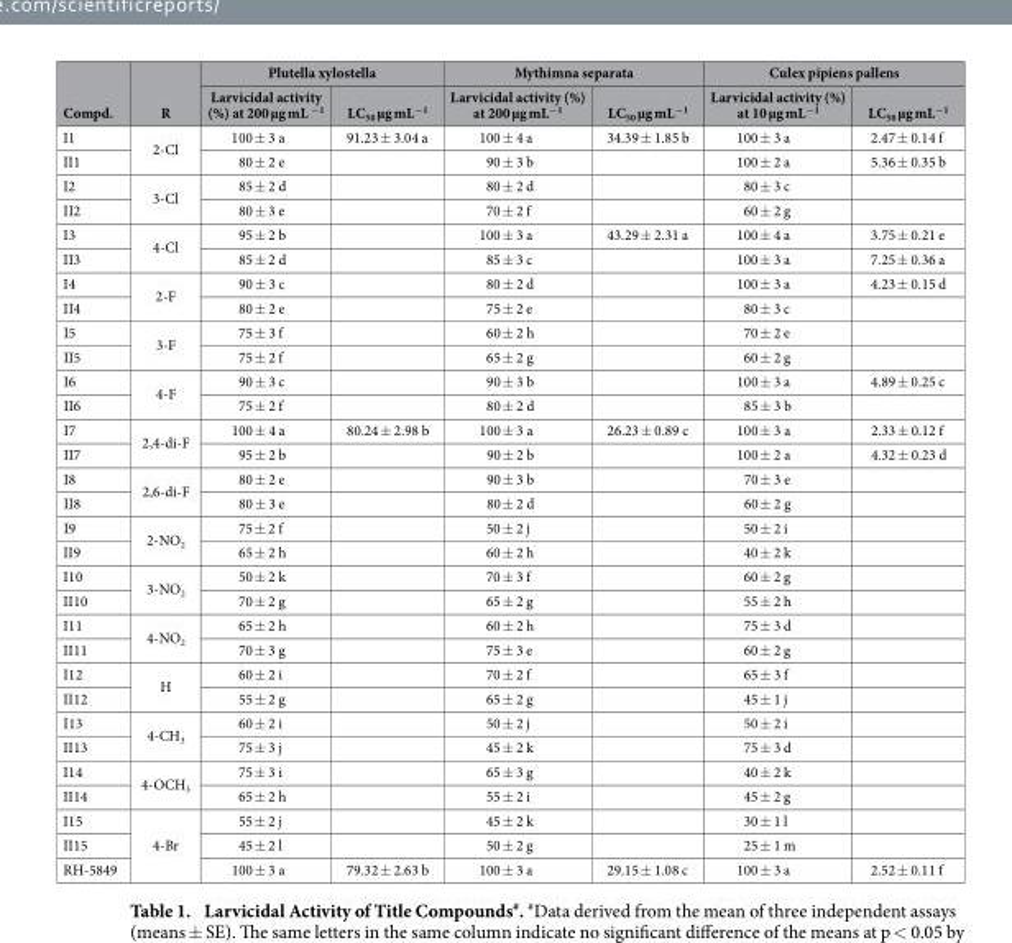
<table><thead><tr><td rowspan="2">Compd.</td><td rowspan="2">R</td><td colspan="2">Plutella xylostella</td><td colspan="2">Mythimna separata</td><td colspan="2">Culex pipiens pallens</td></tr><tr><td>Larvicidal activity (%) at 200 μg mL <sup>−1</sup></td><td>LC<sub>50</sub> μg mL<sup>−1</sup></td><td>Larvicidal activity (%) at 200 μg mL<sup>−1</sup></td><td>LC<sub>50</sub> μg mL<sup>−1</sup></td><td>Larvicidal activity (%) at 10 μg mL<sup>−1</sup></td><td>LC<sub>50</sub> μg mL<sup>−1</sup></td></tr></thead><tbody><tr><td>I1</td><td rowspan="2">2-Cl</td><td>100 ± 3 a</td><td>91.23 ± 3.04 a</td><td>100 ± 4 a</td><td>34.39 ± 1.85 b</td><td>100 ± 3 a</td><td>2.47 ± 0.14 f</td></tr><tr><td>II1</td><td>80 ± 2 e</td><td></td><td>90 ± 3 b</td><td></td><td>100 ± 2 a</td><td>5.36 ± 0.35 b</td></tr><tr><td>I2</td><td rowspan="2">3-Cl</td><td>85 ± 2 d</td><td></td><td>80 ± 2 d</td><td></td><td>80 ± 3 c</td><td></td></tr><tr><td>II2</td><td>80 ± 3 e</td><td></td><td>70 ± 2 f</td><td></td><td>60 ± 2 g</td><td></td></tr><tr><td>I3</td><td rowspan="2">4-Cl</td><td>95 ± 2 b</td><td></td><td>100 ± 3 a</td><td>43.29 ± 2.31 a</td><td>100 ± 4 a</td><td>3.75 ± 0.21 e</td></tr><tr><td>II3</td><td>85 ± 2 d</td><td></td><td>85 ± 3 c</td><td></td><td>100 ± 3 a</td><td>7.25 ± 0.36 a</td></tr><tr><td>I4</td><td rowspan="2">2-F</td><td>90 ± 3 c</td><td></td><td>80 ± 2 d</td><td></td><td>100 ± 3 a</td><td>4.23 ± 0.15 d</td></tr><tr><td>II4</td><td>80 ± 2 e</td><td></td><td>75 ± 2 e</td><td></td><td>80 ± 3 c</td><td></td></tr><tr><td>I5</td><td rowspan="2">3-F</td><td>75 ± 3 f</td><td></td><td>60 ± 2 h</td><td></td><td>70 ± 2 e</td><td></td></tr><tr><td>II5</td><td>75 ± 2 f</td><td></td><td>65 ± 2 g</td><td></td><td>60 ± 2 g</td><td></td></tr><tr><td>I6</td><td rowspan="2">4-F</td><td>90 ± 3 c</td><td></td><td>90 ± 3 b</td><td></td><td>100 ± 3 a</td><td>4.89 ± 0.25 c</td></tr><tr><td>II6</td><td>75 ± 2 f</td><td></td><td>80 ± 2 d</td><td></td><td>85 ± 3 b</td><td></td></tr><tr><td>I7</td><td rowspan="2">2,4-di-F</td><td>100 ± 4 a</td><td>80.24 ± 2.98 b</td><td>100 ± 3 a</td><td>26.23 ± 0.89 c</td><td>100 ± 3 a</td><td>2.33 ± 0.12 f</td></tr><tr><td>II7</td><td>95 ± 2 b</td><td></td><td>90 ± 2 b</td><td></td><td>100 ± 2 a</td><td>4.32 ± 0.23 d</td></tr><tr><td>I8</td><td rowspan="2">2,6-di-F</td><td>80 ± 2 e</td><td></td><td>90 ± 3 b</td><td></td><td>70 ± 3 e</td><td></td></tr><tr><td>II8</td><td>80 ± 3 e</td><td></td><td>80 ± 2 d</td><td></td><td>60 ± 2 g</td><td></td></tr><tr><td>I9</td><td rowspan="2">2-NO<sub>2</sub></td><td>75 ± 2 f</td><td></td><td>50 ± 2 j</td><td></td><td>50 ± 2 i</td><td></td></tr><tr><td>II9</td><td>65 ± 2 h</td><td></td><td>60 ± 2 h</td><td></td><td>40 ± 2 k</td><td></td></tr><tr><td>I10</td><td rowspan="2">3-NO<sub>2</sub></td><td>50 ± 2 k</td><td></td><td>70 ± 3 f</td><td></td><td>60 ± 2 g</td><td></td></tr><tr><td>II10</td><td>70 ± 2 g</td><td></td><td>65 ± 2 g</td><td></td><td>55 ± 2 h</td><td></td></tr><tr><td>I11</td><td rowspan="2">4-NO<sub>2</sub></td><td>65 ± 2 h</td><td></td><td>60 ± 2 h</td><td></td><td>75 ± 3 d</td><td></td></tr><tr><td>II11</td><td>70 ± 3 g</td><td></td><td>75 ± 3 e</td><td></td><td>60 ± 2 g</td><td></td></tr><tr><td>I12</td><td rowspan="2">H</td><td>60 ± 2 i</td><td></td><td>70 ± 2 f</td><td></td><td>65 ± 3 f</td><td></td></tr><tr><td>II12</td><td>55 ± 2 g</td><td></td><td>65 ± 2 g</td><td></td><td>45 ± 1 j</td><td></td></tr><tr><td>I13</td><td rowspan="2">4-CH<sub>3</sub></td><td>60 ± 2 i</td><td></td><td>50 ± 2 j</td><td></td><td>50 ± 2 i</td><td></td></tr><tr><td>II13</td><td>75 ± 3 j</td><td></td><td>45 ± 2 k</td><td></td><td>75 ± 3 d</td><td></td></tr><tr><td>I14</td><td rowspan="2">4-OCH<sub>3</sub></td><td>75 ± 3 i</td><td></td><td>65 ± 3 g</td><td></td><td>40 ± 2 k</td><td></td></tr><tr><td>II14</td><td>65 ± 2 h</td><td></td><td>55 ± 2 i</td><td></td><td>45 ± 2 g</td><td></td></tr><tr><td>I15</td><td rowspan="3">4-Br</td><td>55 ± 2 j</td><td></td><td>45 ± 2 k</td><td></td><td>30 ± 1 l</td><td></td></tr><tr><td>II15</td><td>45 ± 2 l</td><td></td><td>50 ± 2 g</td><td></td><td>25 ± 1 m</td><td></td></tr><tr><td>RH-5849</td><td>100 ± 3 a</td><td>79.32 ± 2.63 b</td><td>100 ± 3 a</td><td>29.15 ± 1.08 c</td><td>100 ± 3 a</td><td>2.52 ± 0.11 f</td></tr></tbody></table>